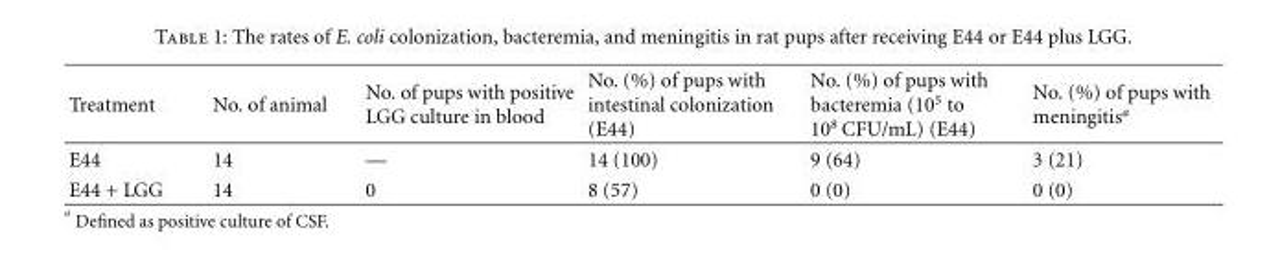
<table><thead><tr><td>Treatment</td><td>No. of animal</td><td>No. of pups with positive LGG culture in blood</td><td>No. (%) of pups with intestinal colonization (E44)</td><td>No. (%) of pups with bacteremia (10<sup>5</sup> to 10<sup>8</sup> CFU/mL) (E44)</td><td>No. (%) of pups with meningitis<sup>a</sup></td></tr></thead><tbody><tr><td>E44</td><td>14</td><td>—</td><td>14 (100)</td><td>9 (64)</td><td>3 (21)</td></tr><tr><td>E44 + LGG</td><td>14</td><td>0</td><td>8 (57)</td><td>0 (0)</td><td>0 (0)</td></tr></tbody></table>